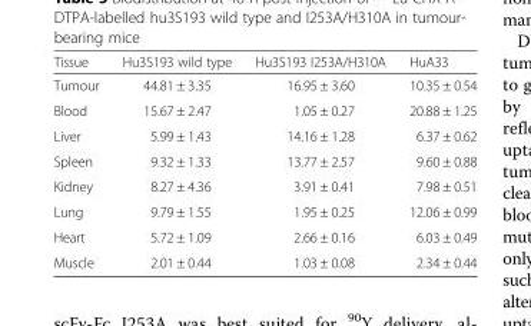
<table><thead><tr><td>Tissue</td><td>Hu3S193 wild type</td><td>Hu3S193 I253A/H310A</td><td>HuA33</td></tr></thead><tbody><tr><td>Tumour</td><td>44.81 ± 3.35</td><td>16.95 ± 3.60</td><td>10.35 ± 0.54</td></tr><tr><td>Blood</td><td>15.67 ± 2.47</td><td>1.05 ± 0.27</td><td>20.88 ± 1.25</td></tr><tr><td>Liver</td><td>5.99 ± 1.43</td><td>14.16 ± 1.28</td><td>6.37 ± 0.62</td></tr><tr><td>Spleen</td><td>9.32 ± 1.33</td><td>13.77 ± 2.57</td><td>9.60 ± 0.88</td></tr><tr><td>Kidney</td><td>8.27 ± 4.36</td><td>3.91 ± 0.41</td><td>7.98 ± 0.51</td></tr><tr><td>Lung</td><td>9.79 ± 1.55</td><td>1.95 ± 0.25</td><td>12.06 ± 0.99</td></tr><tr><td>Heart</td><td>5.72 ± 1.09</td><td>2.66 ± 0.16</td><td>6.03 ± 0.49</td></tr><tr><td>Muscle</td><td>2.01 ± 0.44</td><td>1.03 ± 0.08</td><td>2.34 ± 0.44</td></tr></tbody></table>